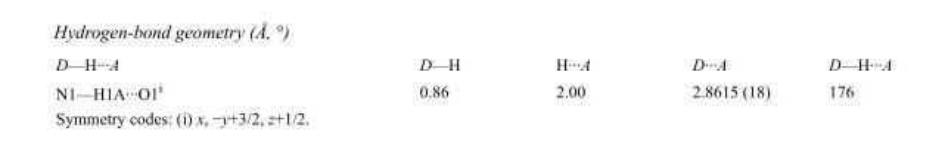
<table><tbody><tr><td>D—H···A</td><td>D—H</td><td>H···A</td><td>D···A</td><td>D—H···A</td></tr><tr><td>N1—H1A···O1<sup>i</sup></td><td>0.86</td><td>2.00</td><td>2.8615 (18)</td><td>176</td></tr></tbody></table>